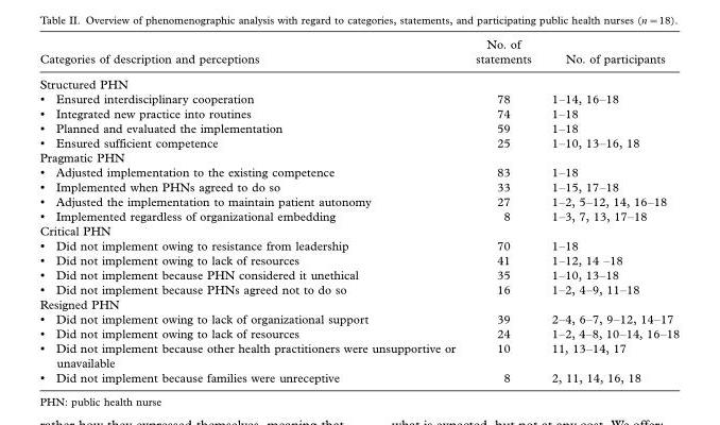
<table><thead><tr><td>Categories of description and perceptions</td><td>No. of statements</td><td>No. of participants</td></tr></thead><tbody><tr><td colspan="3">Structured PHN</td></tr><tr><td>• Ensured interdisciplinary cooperation</td><td>78</td><td>1–14, 16–18</td></tr><tr><td>• Integrated new practice into routines</td><td>74</td><td>1–18</td></tr><tr><td>• Planned and evaluated the implementation</td><td>59</td><td>1–18</td></tr><tr><td>• Ensured sufficient competence</td><td>25</td><td>1–10, 13–16, 18</td></tr><tr><td colspan="3">Pragmatic PHN</td></tr><tr><td>• Adjusted implementation to the existing competence</td><td>83</td><td>1–18</td></tr><tr><td>• Implemented when PHNs agreed to do so</td><td>33</td><td>1–15, 17–18</td></tr><tr><td>• Adjusted the implementation to maintain patient autonomy</td><td>27</td><td>1–2, 5–12, 14, 16–18</td></tr><tr><td>• Implemented regardless of organizational embedding</td><td>8</td><td>1–3, 7, 13, 17–18</td></tr><tr><td colspan="3">Critical PHN</td></tr><tr><td>• Did not implement owing to resistance from leadership</td><td>70</td><td>1–18</td></tr><tr><td>• Did not implement owing to lack of resources</td><td>41</td><td>1–12, 14 –18</td></tr><tr><td>• Did not implement because PHN considered it unethical</td><td>35</td><td>1–10, 13–18</td></tr><tr><td>• Did not implement because PHNs agreed not to do so</td><td>16</td><td>1–2, 4–9, 11–18</td></tr><tr><td colspan="3">Resigned PHN</td></tr><tr><td>• Did not implement owing to lack of organizational support</td><td>39</td><td>2–4, 6–7, 9–12, 14–17</td></tr><tr><td>• Did not implement owing to lack of resources</td><td>24</td><td>1–2, 4–8, 10–14, 16–18</td></tr><tr><td>• Did not implement because other health practitioners were unsupportive or unavailable</td><td>10</td><td>11, 13–14, 17</td></tr><tr><td>• Did not implement because families were unreceptive</td><td>8</td><td>2, 11, 14, 16, 18</td></tr></tbody></table>